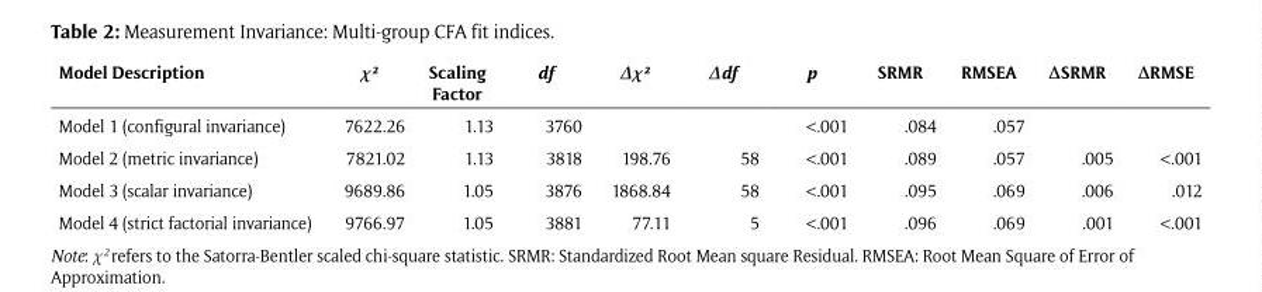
<table><thead><tr><td>Model Description</td><td>χ²</td><td>Scaling Factor</td><td>df</td><td>∆χ²</td><td>∆df</td><td>p</td><td>SRMR</td><td>RMSEA</td><td>∆SRMR</td><td>∆RMSE</td></tr></thead><tbody><tr><td>Model 1 (configural invariance)</td><td>7622.26</td><td>1.13</td><td>3760</td><td></td><td></td><td>&lt;.001</td><td>.084</td><td>.057</td><td></td><td></td></tr><tr><td>Model 2 (metric invariance)</td><td>7821.02</td><td>1.13</td><td>3818</td><td>198.76</td><td>58</td><td>&lt;.001</td><td>.089</td><td>.057</td><td>.005</td><td>&lt;.001</td></tr><tr><td>Model 3 (scalar invariance)</td><td>9689.86</td><td>1.05</td><td>3876</td><td>1868.84</td><td>58</td><td>&lt;.001</td><td>.095</td><td>.069</td><td>.006</td><td>.012</td></tr><tr><td>Model 4 (strict factorial invariance)</td><td>9766.97</td><td>1.05</td><td>3881</td><td>77.11</td><td>5</td><td>&lt;.001</td><td>.096</td><td>.069</td><td>.001</td><td>&lt;.001</td></tr></tbody></table>